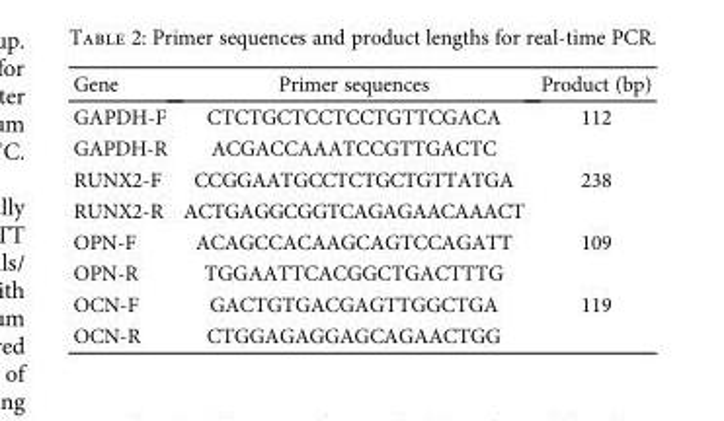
<table><thead><tr><td>Gene</td><td>Primer sequences</td><td>Product (bp)</td></tr></thead><tbody><tr><td>GAPDH-F</td><td>CTCTGCTCCTCCTGTTCGACA</td><td>112</td></tr><tr><td>GAPDH-R</td><td>ACGACCAAATCCGTTGACTC</td><td></td></tr><tr><td>RUNX2-F</td><td>CCGGAATGCCTCTGCTGTTATGA</td><td>238</td></tr><tr><td>RUNX2-R</td><td>ACTGAGGCGGTCAGAGAACAAACT</td><td></td></tr><tr><td>OPN-F</td><td>ACAGCCACAAGCAGTCCAGATT</td><td>109</td></tr><tr><td>OPN-R</td><td>TGGAATTCACGGCTGACTTTG</td><td></td></tr><tr><td>OCN-F</td><td>GACTGTGACGAGTTGGCTGA</td><td>119</td></tr><tr><td>OCN-R</td><td>CTGGAGAGGAGCAGAACTGG</td><td></td></tr></tbody></table>